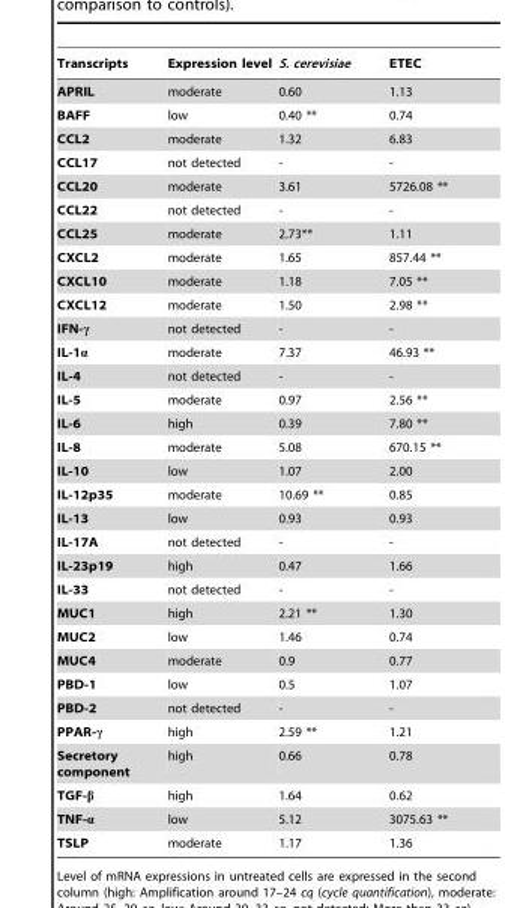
<table><thead><tr><td>Transcripts</td><td>Expression level</td><td>S. cerevisiae</td><td>ETEC</td></tr></thead><tbody><tr><td>APRIL</td><td>moderate</td><td>0.60</td><td>1.13</td></tr><tr><td>BAFF</td><td>low</td><td>0.40 **</td><td>0.74</td></tr><tr><td>CCL2</td><td>moderate</td><td>1.32</td><td>6.83</td></tr><tr><td>CCL17</td><td>not detected</td><td>-</td><td>-</td></tr><tr><td>CCL20</td><td>moderate</td><td>3.61</td><td>5726.08 **</td></tr><tr><td>CCL22</td><td>not detected</td><td>-</td><td>-</td></tr><tr><td>CCL25</td><td>moderate</td><td>2.73**</td><td>1.11</td></tr><tr><td>CXCL2</td><td>moderate</td><td>1.65</td><td>857.44 **</td></tr><tr><td>CXCL10</td><td>moderate</td><td>1.18</td><td>7.05 **</td></tr><tr><td>CXCL12</td><td>moderate</td><td>1.50</td><td>2.98 **</td></tr><tr><td>IFN-γ</td><td>not detected</td><td>-</td><td>-</td></tr><tr><td>IL-1α</td><td>moderate</td><td>7.37</td><td>46.93 **</td></tr><tr><td>IL-4</td><td>not detected</td><td>-</td><td>-</td></tr><tr><td>IL-5</td><td>moderate</td><td>0.97</td><td>2.56 **</td></tr><tr><td>IL-6</td><td>high</td><td>0.39</td><td>7.80 **</td></tr><tr><td>IL-8</td><td>moderate</td><td>5.08</td><td>670.15 **</td></tr><tr><td>IL-10</td><td>low</td><td>1.07</td><td>2.00</td></tr><tr><td>IL-12p35</td><td>moderate</td><td>10.69 **</td><td>0.85</td></tr><tr><td>IL-13</td><td>low</td><td>0.93</td><td>0.93</td></tr><tr><td>IL-17A</td><td>not detected</td><td>-</td><td>-</td></tr><tr><td>IL-23p19</td><td>high</td><td>0.47</td><td>1.66</td></tr><tr><td>IL-33</td><td>not detected</td><td>-</td><td>-</td></tr><tr><td>MUC1</td><td>high</td><td>2.21 **</td><td>1.30</td></tr><tr><td>MUC2</td><td>low</td><td>1.46</td><td>0.74</td></tr><tr><td>MUC4</td><td>moderate</td><td>0.9</td><td>0.77</td></tr><tr><td>PBD-1</td><td>low</td><td>0.5</td><td>1.07</td></tr><tr><td>PBD-2</td><td>not detected</td><td>-</td><td>-</td></tr><tr><td>PPAR-γ</td><td>high</td><td>2.59 **</td><td>1.21</td></tr><tr><td>Secretory component</td><td>high</td><td>0.66</td><td>0.78</td></tr><tr><td>TGF-β</td><td>high</td><td>1.64</td><td>0.62</td></tr><tr><td>TNF-α</td><td>low</td><td>5.12</td><td>3075.63 **</td></tr><tr><td>TSLP</td><td>moderate</td><td>1.17</td><td>1.36</td></tr></tbody></table>